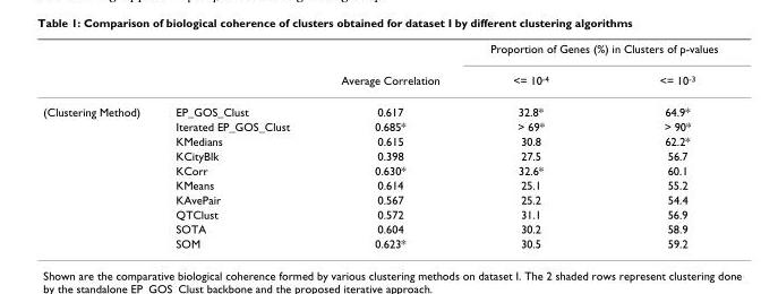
<table><thead><tr><td rowspan="2"></td><td rowspan="2"></td><td rowspan="2">Average Correlation</td><td colspan="2">Proportion of Genes (%) in Clusters of p-values</td></tr><tr><td>&lt;= 10<sup>-4</sup></td><td>&lt;= 10<sup>-3</sup></td></tr></thead><tbody><tr><td rowspan="10">(Clustering Method)</td><td>EP_GOS_Clust</td><td>0.617</td><td>32.8*</td><td>64.9*</td></tr><tr><td>Iterated EP_GOS_Clust</td><td>0.685*</td><td>&gt; 69*</td><td>&gt; 90*</td></tr><tr><td>KMedians</td><td>0.615</td><td>30.8</td><td>62.2*</td></tr><tr><td>KCityBlk</td><td>0.398</td><td>27.5</td><td>56.7</td></tr><tr><td>KCorr</td><td>0.630*</td><td>32.6*</td><td>60.1</td></tr><tr><td>KMeans</td><td>0.614</td><td>25.1</td><td>55.2</td></tr><tr><td>KAvePair</td><td>0.567</td><td>25.2</td><td>54.4</td></tr><tr><td>QTClust</td><td>0.572</td><td>31.1</td><td>56.9</td></tr><tr><td>SOTA</td><td>0.604</td><td>30.2</td><td>58.9</td></tr><tr><td>SOM</td><td>0.623*</td><td>30.5</td><td>59.2</td></tr></tbody></table>